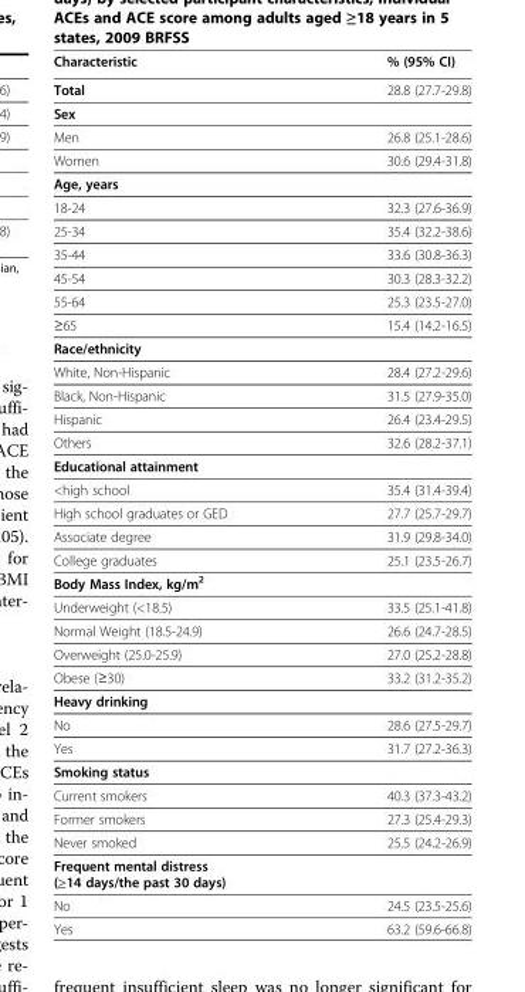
<table><thead><tr><td>Characteristic</td><td>% (95% CI)</td></tr></thead><tbody><tr><td>Total</td><td>28.8 (27.7-29.8)</td></tr><tr><td colspan="2">Sex</td></tr><tr><td>Men</td><td>26.8 (25.1-28.6)</td></tr><tr><td>Women</td><td>30.6 (29.4-31.8)</td></tr><tr><td colspan="2">Age, years</td></tr><tr><td>18-24</td><td>32.3 (27.6-36.9)</td></tr><tr><td>25-34</td><td>35.4 (32.2-38.6)</td></tr><tr><td>35-44</td><td>33.6 (30.8-36.3)</td></tr><tr><td>45-54</td><td>30.3 (28.3-32.2)</td></tr><tr><td>55-64</td><td>25.3 (23.5-27.0)</td></tr><tr><td>≥65</td><td>15.4 (14.2-16.5)</td></tr><tr><td colspan="2">Race/ethnicity</td></tr><tr><td>White, Non-Hispanic</td><td>28.4 (27.2-29.6)</td></tr><tr><td>Black, Non-Hispanic</td><td>31.5 (27.9-35.0)</td></tr><tr><td>Hispanic</td><td>26.4 (23.4-29.5)</td></tr><tr><td>Others</td><td>32.6 (28.2-37.1)</td></tr><tr><td colspan="2">Educational attainment</td></tr><tr><td>&lt;high school</td><td>35.4 (31.4-39.4)</td></tr><tr><td>High school graduates or GED</td><td>27.7 (25.7-29.7)</td></tr><tr><td>Associate degree</td><td>31.9 (29.8-34.0)</td></tr><tr><td>College graduates</td><td>25.1 (23.5-26.7)</td></tr><tr><td colspan="2">Body Mass Index, kg/m<sup>2</sup></td></tr><tr><td>Underweight (&lt;18.5)</td><td>33.5 (25.1-41.8)</td></tr><tr><td>Normal Weight (18.5-24.9)</td><td>26.6 (24.7-28.5)</td></tr><tr><td>Overweight (25.0-25.9)</td><td>27.0 (25.2-28.8)</td></tr><tr><td>Obese (≥30)</td><td>33.2 (31.2-35.2)</td></tr><tr><td colspan="2">Heavy drinking</td></tr><tr><td>No</td><td>28.6 (27.5-29.7)</td></tr><tr><td>Yes</td><td>31.7 (27.2-36.3)</td></tr><tr><td colspan="2">Smoking status</td></tr><tr><td>Current smokers</td><td>40.3 (37.3-43.2)</td></tr><tr><td>Former smokers</td><td>27.3 (25.4-29.3)</td></tr><tr><td>Never smoked</td><td>25.5 (24.2-26.9)</td></tr><tr><td colspan="2">Frequent mental distress (≥14 days/the past 30 days)</td></tr><tr><td>No</td><td>24.5 (23.5-25.6)</td></tr><tr><td>Yes</td><td>63.2 (59.6-66.8)</td></tr></tbody></table>